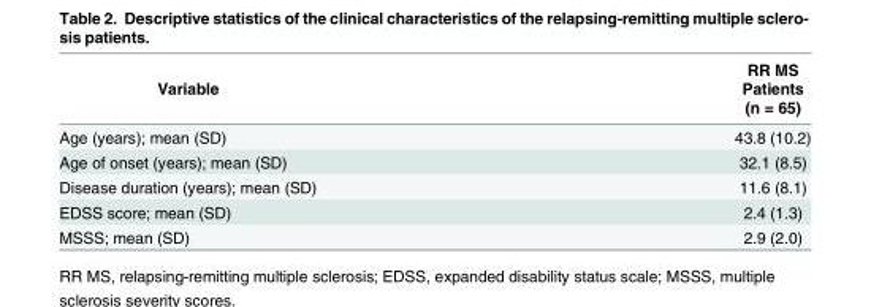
<table><thead><tr><td rowspan="3">Variable</td><td rowspan="3">RR MS Patients (n = 65)</td></tr><tr></tr><tr></tr></thead><tbody><tr><td>Age (years); mean (SD)</td><td>43.8 (10.2)</td></tr><tr><td>Age of onset (years); mean (SD)</td><td>32.1 (8.5)</td></tr><tr><td>Disease duration (years); mean (SD)</td><td>11.6 (8.1)</td></tr><tr><td>EDSS score; mean (SD)</td><td>2.4 (1.3)</td></tr><tr><td>MSSS; mean (SD)</td><td>2.9 (2.0)</td></tr></tbody></table>